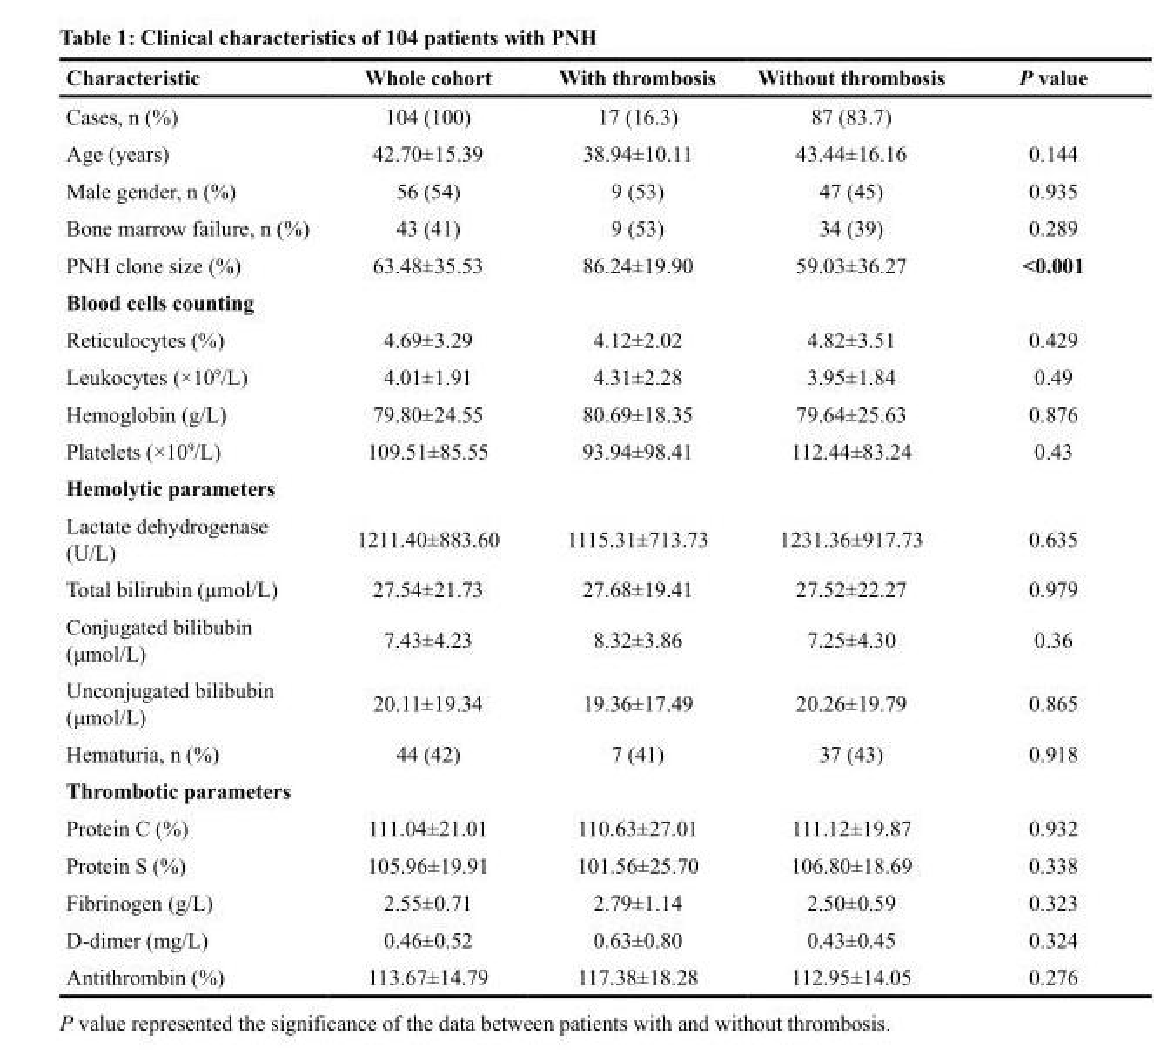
<table><thead><tr><td>Characteristic</td><td>Whole cohort</td><td>With thrombosis</td><td>Without thrombosis</td><td>P value</td></tr></thead><tbody><tr><td>Cases, n (%)</td><td>104 (100)</td><td>17 (16.3)</td><td>87 (83.7)</td><td></td></tr><tr><td>Age (years)</td><td>42.70±15.39</td><td>38.94±10.11</td><td>43.44±16.16</td><td>0.144</td></tr><tr><td>Male gender, n (%)</td><td>56 (54)</td><td>9 (53)</td><td>47 (45)</td><td>0.935</td></tr><tr><td>Bone marrow failure, n (%)</td><td>43 (41)</td><td>9 (53)</td><td>34 (39)</td><td>0.289</td></tr><tr><td>PNH clone size (%)</td><td>63.48±35.53</td><td>86.24±19.90</td><td>59.03±36.27</td><td>&lt;0.001</td></tr><tr><td colspan="5">Blood cells counting</td></tr><tr><td>Reticulocytes (%)</td><td>4.69±3.29</td><td>4.12±2.02</td><td>4.82±3.51</td><td>0.429</td></tr><tr><td>Leukocytes (×10<sup>9</sup>/L)</td><td>4.01±1.91</td><td>4.31±2.28</td><td>3.95±1.84</td><td>0.49</td></tr><tr><td>Hemoglobin (g/L)</td><td>79.80±24.55</td><td>80.69±18.35</td><td>79.64±25.63</td><td>0.876</td></tr><tr><td>Platelets (×10<sup>9</sup>/L)</td><td>109.51±85.55</td><td>93.94±98.41</td><td>112.44±83.24</td><td>0.43</td></tr><tr><td colspan="5">Hemolytic parameters</td></tr><tr><td>Lactate dehydrogenase (U/L)</td><td>1211.40±883.60</td><td>1115.31±713.73</td><td>1231.36±917.73</td><td>0.635</td></tr><tr><td>Total bilirubin (μmol/L)</td><td>27.54±21.73</td><td>27.68±19.41</td><td>27.52±22.27</td><td>0.979</td></tr><tr><td>Conjugated bilibubin (μmol/L)</td><td>7.43±4.23</td><td>8.32±3.86</td><td>7.25±4.30</td><td>0.36</td></tr><tr><td>Unconjugated bilibubin (μmol/L)</td><td>20.11±19.34</td><td>19.36±17.49</td><td>20.26±19.79</td><td>0.865</td></tr><tr><td>Hematuria, n (%)</td><td>44 (42)</td><td>7 (41)</td><td>37 (43)</td><td>0.918</td></tr><tr><td colspan="5">Thrombotic parameters</td></tr><tr><td>Protein C (%)</td><td>111.04±21.01</td><td>110.63±27.01</td><td>111.12±19.87</td><td>0.932</td></tr><tr><td>Protein S (%)</td><td>105.96±19.91</td><td>101.56±25.70</td><td>106.80±18.69</td><td>0.338</td></tr><tr><td>Fibrinogen (g/L)</td><td>2.55±0.71</td><td>2.79±1.14</td><td>2.50±0.59</td><td>0.323</td></tr><tr><td>D-dimer (mg/L)</td><td>0.46±0.52</td><td>0.63±0.80</td><td>0.43±0.45</td><td>0.324</td></tr><tr><td>Antithrombin (%)</td><td>113.67±14.79</td><td>117.38±18.28</td><td>112.95±14.05</td><td>0.276</td></tr></tbody></table>